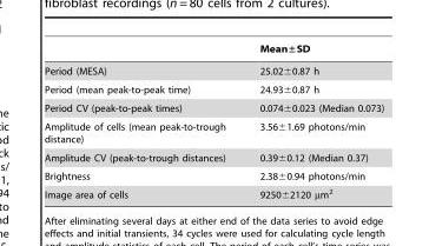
<table><thead><tr><td></td><td>Mean±SD</td></tr></thead><tbody><tr><td>Period (MESA)</td><td>25.02±0.87 h</td></tr><tr><td>Period (mean peak-to-peak time)</td><td>24.93±0.87 h</td></tr><tr><td>Period CV (peak-to-peak times)</td><td>0.074±0.023 (Median 0.073)</td></tr><tr><td>Amplitude of cells (mean peak-to-trough distance)</td><td>3.56±1.69 photons/min</td></tr><tr><td>Amplitude CV (peak-to-trough distances)</td><td>0.39±0.12 (Median 0.37)</td></tr><tr><td>Brightness</td><td>2.38±0.94 photons/min</td></tr><tr><td>Image area of cells</td><td>9250±2120 µm<sup>2</sup></td></tr></tbody></table>